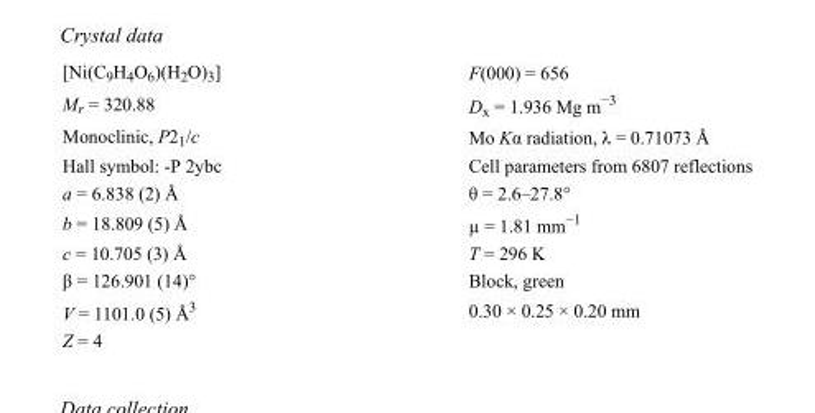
<table><tbody><tr><td>[Ni(C<sub>9</sub>H<sub>4</sub>O<sub>6</sub>)(H<sub>2</sub>O)<sub>3</sub>]</td><td>F(000) = 656</td></tr><tr><td>M<sub>r</sub> = 320.88</td><td>D<sub>x</sub> = 1.936 Mg m<sup>−3</sup></td></tr><tr><td>Monoclinic, P2<sub>1</sub>/c</td><td>Mo Kα radiation, λ = 0.71073 Å</td></tr><tr><td>Hall symbol: -P 2ybc</td><td>Cell parameters from 6807 reflections</td></tr><tr><td>a = 6.838 (2) Å</td><td>θ = 2.6–27.8°</td></tr><tr><td>b = 18.809 (5) Å</td><td>µ = 1.81 mm<sup>−1</sup></td></tr><tr><td>c = 10.705 (3) Å</td><td>T = 296 K</td></tr><tr><td>β = 126.901 (14)°</td><td>Block, green</td></tr><tr><td>V = 1101.0 (5) Å<sup>3</sup></td><td>0.30 × 0.25 × 0.20 mm</td></tr><tr><td>Z = 4</td><td></td></tr></tbody></table>